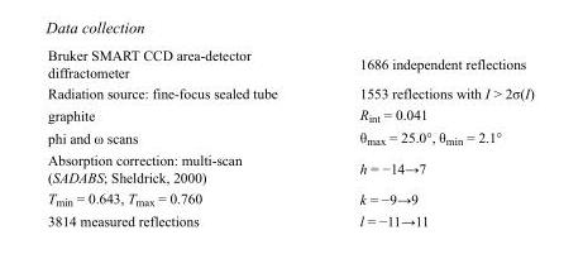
<table><tbody><tr><td>Bruker SMART CCD area-detector diffractometer</td><td>1686 independent reflections</td></tr><tr><td>Radiation source: fine-focus sealed tube</td><td>1553 reflections with I &gt; 2σ(I)</td></tr><tr><td>graphite</td><td>R<sub>int</sub> = 0.041</td></tr><tr><td>phi and ω scans</td><td>θ<sub>max</sub> = 25.0°, θ<sub>min</sub> = 2.1°</td></tr><tr><td>Absorption correction: multi-scan (SADABS; Sheldrick, 2000)</td><td>h = −14→7</td></tr><tr><td>T<sub>min</sub> = 0.643, T<sub>max</sub> = 0.760</td><td>k = −9→9</td></tr><tr><td>3814 measured reflections</td><td>l = −11→11</td></tr></tbody></table>